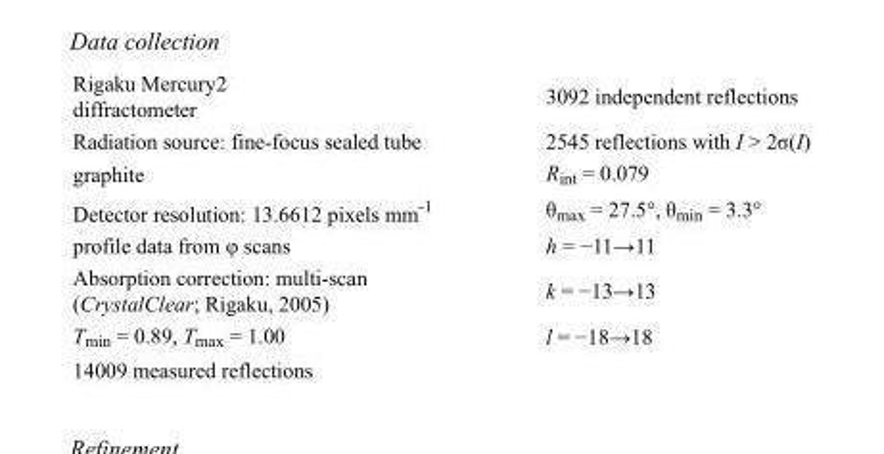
<table><tbody><tr><td>Rigaku Mercury2 diffractometer</td><td>3092 independent reflections</td></tr><tr><td>Radiation source: fine-focus sealed tube</td><td>2545 reflections with I &gt; 2σ(I)</td></tr><tr><td>graphite</td><td>R<sub>int</sub> = 0.079</td></tr><tr><td>Detector resolution: 13.6612 pixels mm<sup>-1</sup></td><td>θ<sub>max</sub> = 27.5°, θ<sub>min</sub> = 3.3°</td></tr><tr><td>profile data from φ scans</td><td>h = −11→11</td></tr><tr><td>Absorption correction: multi-scan (CrystalClear; Rigaku, 2005)</td><td>k = −13→13</td></tr><tr><td>T<sub>min</sub> = 0.89, T<sub>max</sub> = 1.00</td><td>l = −18→18</td></tr><tr><td>14009 measured reflections</td><td></td></tr></tbody></table>